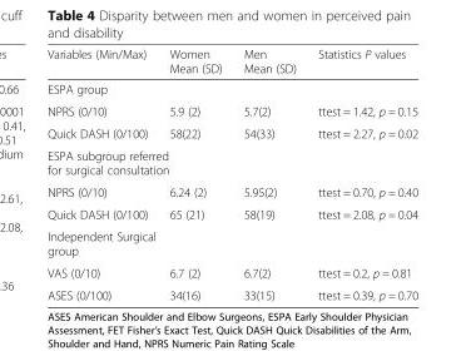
<table><thead><tr><td>Variables (Min/Max)</td><td>Women Mean (SD)</td><td>Men Mean (SD)</td><td>Statistics P values</td></tr></thead><tbody><tr><td colspan="4">ESPA group</td></tr><tr><td>NPRS (0/10)</td><td>5.9 (2)</td><td>5.7(2)</td><td>ttest = 1.42, p = 0.15</td></tr><tr><td>Quick DASH (0/100)</td><td>58(22)</td><td>54(33)</td><td>ttest = 2.27, p = 0.02</td></tr><tr><td colspan="4">ESPA subgroup referred for surgical consultation</td></tr><tr><td>NPRS (0/10)</td><td>6.24 (2)</td><td>5.95(2)</td><td>ttest = 0.70, p = 0.40</td></tr><tr><td>Quick DASH (0/100)</td><td>65 (21)</td><td>58(19)</td><td>ttest = 2.08, p = 0.04</td></tr><tr><td colspan="4">Independent Surgical group</td></tr><tr><td>VAS (0/10)</td><td>6.7 (2)</td><td>6.7(2)</td><td>ttest = 0.2, p = 0.81</td></tr><tr><td>ASES (0/100)</td><td>34(16)</td><td>33(15)</td><td>ttest = 0.39, p = 0.70</td></tr></tbody></table>